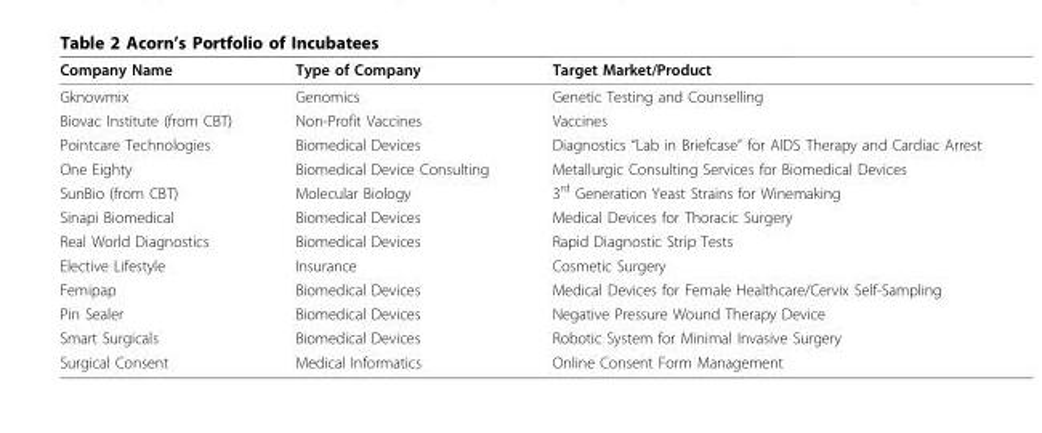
<table><thead><tr><td>Company Name</td><td>Type of Company</td><td>Target Market/Product</td></tr></thead><tbody><tr><td>Gknowmix</td><td>Genomics</td><td>Genetic Testing and Counselling</td></tr><tr><td>Biovac Institute (from CBT)</td><td>Non-Profit Vaccines</td><td>Vaccines</td></tr><tr><td>Pointcare Technologies</td><td>Biomedical Devices</td><td>Diagnostics “Lab in Briefcase” for AIDS Therapy and Cardiac Arrest</td></tr><tr><td>One Eighty</td><td>Biomedical Device Consulting</td><td>Metallurgic Consulting Services for Biomedical Devices</td></tr><tr><td>SunBio (from CBT)</td><td>Molecular Biology</td><td>3<sup>rd</sup> Generation Yeast Strains for Winemaking</td></tr><tr><td>Sinapi Biomedical</td><td>Biomedical Devices</td><td>Medical Devices for Thoracic Surgery</td></tr><tr><td>Real World Diagnostics</td><td>Biomedical Devices</td><td>Rapid Diagnostic Strip Tests</td></tr><tr><td>Elective Lifestyle</td><td>Insurance</td><td>Cosmetic Surgery</td></tr><tr><td>Femipap</td><td>Biomedical Devices</td><td>Medical Devices for Female Healthcare/Cervix Self-Sampling</td></tr><tr><td>Pin Sealer</td><td>Biomedical Devices</td><td>Negative Pressure Wound Therapy Device</td></tr><tr><td>Smart Surgicals</td><td>Biomedical Devices</td><td>Robotic System for Minimal Invasive Surgery</td></tr><tr><td>Surgical Consent</td><td>Medical Informatics</td><td>Online Consent Form Management</td></tr></tbody></table>